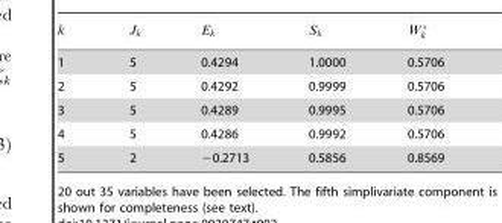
<table><tbody><tr><td>1</td><td>5</td><td>0.4294</td><td>1.0000</td><td>0.5706</td></tr><tr><td>2</td><td>5</td><td>0.4292</td><td>0.9999</td><td>0.5706</td></tr><tr><td>3</td><td>5</td><td>0.4289</td><td>0.9995</td><td>0.5706</td></tr><tr><td>4</td><td>5</td><td>0.4286</td><td>0.9992</td><td>0.5706</td></tr><tr><td>5</td><td>2</td><td>−0.2713</td><td>0.5856</td><td>0.8569</td></tr></tbody></table>